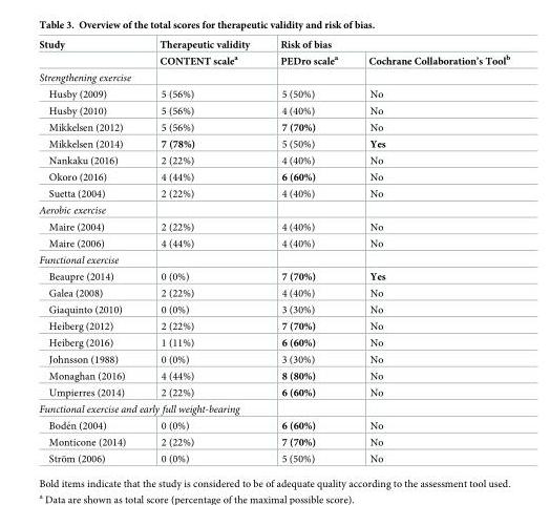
<table><thead><tr><td rowspan="2">Study</td><td rowspan="2">Therapeutic validity CONTENT scale<sup>a</sup></td><td colspan="2">Risk of bias</td></tr><tr><td>PEDro scale<sup>a</sup></td><td>Cochrane Collaboration’s Tool<sup>b</sup></td></tr></thead><tbody><tr><td colspan="4">Strengthening exercise</td></tr><tr><td>Husby (2009)</td><td>5 (56%)</td><td>5 (50%)</td><td>No</td></tr><tr><td>Husby (2010)</td><td>5 (56%)</td><td>4 (40%)</td><td>No</td></tr><tr><td>Mikkelsen (2012)</td><td>5 (56%)</td><td>7 (70%)</td><td>No</td></tr><tr><td>Mikkelsen (2014)</td><td>7 (78%)</td><td>5 (50%)</td><td>Yes</td></tr><tr><td>Nankaku (2016)</td><td>2 (22%)</td><td>4 (40%)</td><td>No</td></tr><tr><td>Okoro (2016)</td><td>4 (44%)</td><td>6 (60%)</td><td>No</td></tr><tr><td>Suetta (2004)</td><td>2 (22%)</td><td>4 (40%)</td><td>No</td></tr><tr><td colspan="4">Aerobic exercise</td></tr><tr><td>Maire (2004)</td><td>2 (22%)</td><td>4 (40%)</td><td>No</td></tr><tr><td>Maire (2006)</td><td>4 (44%)</td><td>4 (40%)</td><td>No</td></tr><tr><td colspan="4">Functional exercise</td></tr><tr><td>Beaupre (2014)</td><td>0 (0%)</td><td>7 (70%)</td><td>Yes</td></tr><tr><td>Galea (2008)</td><td>2 (22%)</td><td>4 (40%)</td><td>No</td></tr><tr><td>Giaquinto (2010)</td><td>0 (0%)</td><td>3 (30%)</td><td>No</td></tr><tr><td>Heiberg (2012)</td><td>2 (22%)</td><td>7 (70%)</td><td>No</td></tr><tr><td>Heiberg (2016)</td><td>1 (11%)</td><td>6 (60%)</td><td>No</td></tr><tr><td>Johnsson (1988)</td><td>0 (0%)</td><td>3 (30%)</td><td>No</td></tr><tr><td>Monaghan (2016)</td><td>4 (44%)</td><td>8 (80%)</td><td>No</td></tr><tr><td>Umpierres (2014)</td><td>2 (22%)</td><td>6 (60%)</td><td>No</td></tr><tr><td colspan="4">Functional exercise and early full weight-bearing</td></tr><tr><td>Bode´n (2004)</td><td>0 (0%)</td><td>6 (60%)</td><td>No</td></tr><tr><td>Monticone (2014)</td><td>2 (22%)</td><td>7 (70%)</td><td>No</td></tr><tr><td>Stro¨m (2006)</td><td>0 (0%)</td><td>5 (50%)</td><td>No</td></tr></tbody></table>